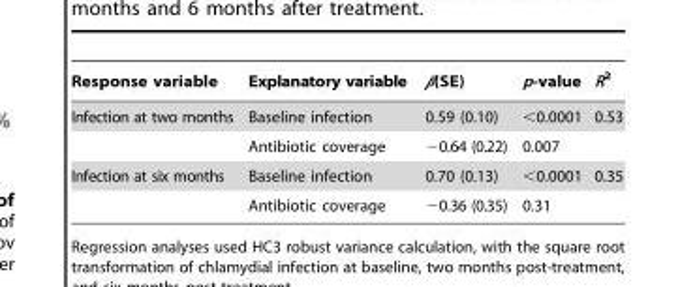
<table><thead><tr><td>Response variable</td><td>Explanatory variable</td><td>β(SE)</td><td>p-value</td><td>R<sup>2</sup></td></tr></thead><tbody><tr><td rowspan="2">Infection at two months</td><td>Baseline infection</td><td>0.59 (0.10)</td><td>&lt;0.0001</td><td>0.53</td></tr><tr><td>Antibiotic coverage</td><td>−0.64 (0.22)</td><td>0.007</td><td></td></tr><tr><td rowspan="2">Infection at six months</td><td>Baseline infection</td><td>0.70 (0.13)</td><td>&lt;0.0001</td><td>0.35</td></tr><tr><td>Antibiotic coverage</td><td>−0.36 (0.35)</td><td>0.31</td><td></td></tr></tbody></table>